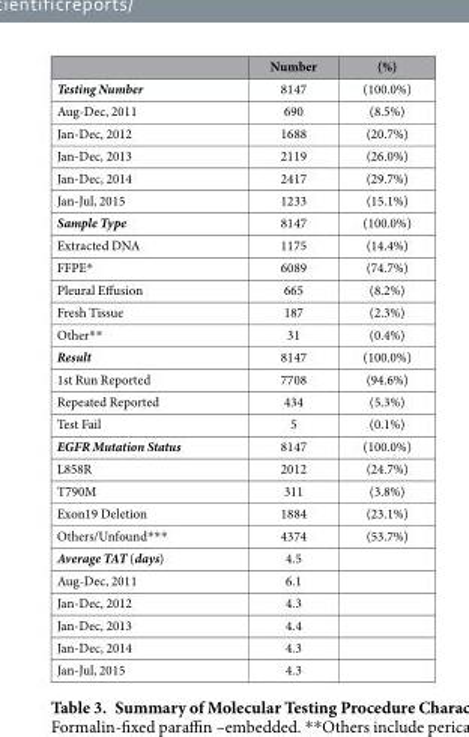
<table><thead><tr><td></td><td>Number</td><td>(%)</td></tr></thead><tbody><tr><td>Testing Number</td><td>8147</td><td>(100.0%)</td></tr><tr><td>Aug-Dec, 2011</td><td>690</td><td>(8.5%)</td></tr><tr><td>Jan-Dec, 2012</td><td>1688</td><td>(20.7%)</td></tr><tr><td>Jan-Dec, 2013</td><td>2119</td><td>(26.0%)</td></tr><tr><td>Jan-Dec, 2014</td><td>2417</td><td>(29.7%)</td></tr><tr><td>Jan-Jul, 2015</td><td>1233</td><td>(15.1%)</td></tr><tr><td>Sample Type</td><td>8147</td><td>(100.0%)</td></tr><tr><td>Extracted DNA</td><td>1175</td><td>(14.4%)</td></tr><tr><td>FFPE*</td><td>6089</td><td>(74.7%)</td></tr><tr><td>Pleural Effusion</td><td>665</td><td>(8.2%)</td></tr><tr><td>Fresh Tissue</td><td>187</td><td>(2.3%)</td></tr><tr><td>Other* *</td><td>31</td><td>(0.4%)</td></tr><tr><td>Result</td><td>8147</td><td>(100.0%)</td></tr><tr><td>1st Run Reported</td><td>7708</td><td>(94.6%)</td></tr><tr><td>Repeated Reported</td><td>434</td><td>(5.3%)</td></tr><tr><td>Test Fail</td><td>5</td><td>(0.1%)</td></tr><tr><td>EGFR Mutation Status</td><td>8147</td><td>(100.0%)</td></tr><tr><td>L858R</td><td>2012</td><td>(24.7%)</td></tr><tr><td>T790M</td><td>311</td><td>(3.8%)</td></tr><tr><td>Exon19 Deletion</td><td>1884</td><td>(23.1%)</td></tr><tr><td>Others/Unfound* * *</td><td>4374</td><td>(53.7%)</td></tr><tr><td>Average TAT (days)</td><td>4.5</td><td></td></tr><tr><td>Aug-Dec, 2011</td><td>6.1</td><td></td></tr><tr><td>Jan-Dec, 2012</td><td>4.3</td><td></td></tr><tr><td>Jan-Dec, 2013</td><td>4.4</td><td></td></tr><tr><td>Jan-Dec, 2014</td><td>4.3</td><td></td></tr><tr><td>Jan-Jul, 2015</td><td>4.3</td><td></td></tr></tbody></table>